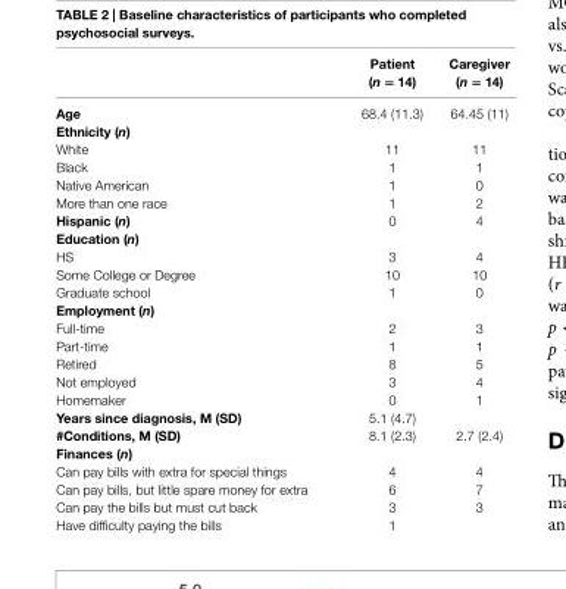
<table><thead><tr><td></td><td>Patient (n = 14)</td><td>caregiver (n = 14)</td></tr></thead><tbody><tr><td>age</td><td>68.4 (11.3)</td><td>64.45 (11)</td></tr><tr><td colspan="3">ethnicity (n)</td></tr><tr><td>White</td><td>11</td><td>11</td></tr><tr><td>Black</td><td>1</td><td>1</td></tr><tr><td>Native American</td><td>1</td><td>0</td></tr><tr><td>More than one race</td><td>1</td><td>2</td></tr><tr><td>hispanic (n)</td><td>0</td><td>4</td></tr><tr><td colspan="3">education (n)</td></tr><tr><td>HS</td><td>3</td><td>4</td></tr><tr><td>Some College or Degree</td><td>10</td><td>10</td></tr><tr><td>Graduate school</td><td>1</td><td>0</td></tr><tr><td colspan="3">employment (n)</td></tr><tr><td>Full-time</td><td>2</td><td>3</td></tr><tr><td>Part-time</td><td>1</td><td>1</td></tr><tr><td>Retired</td><td>8</td><td>5</td></tr><tr><td>Not employed</td><td>3</td><td>4</td></tr><tr><td>Homemaker</td><td>0</td><td>1</td></tr><tr><td>Years since diagnosis, M (sD)</td><td>5.1 (4.7)</td><td></td></tr><tr><td>#conditions, M (sD)</td><td>8.1 (2.3)</td><td>2.7 (2.4)</td></tr><tr><td colspan="3">Finances (n)</td></tr><tr><td>Can pay bills with extra for special things</td><td>4</td><td>4</td></tr><tr><td>Can pay bills, but little spare money for extra</td><td>6</td><td>7</td></tr><tr><td>Can pay the bills but must cut back</td><td>3</td><td>3</td></tr><tr><td>Have difficulty paying the bills</td><td>1</td><td></td></tr></tbody></table>